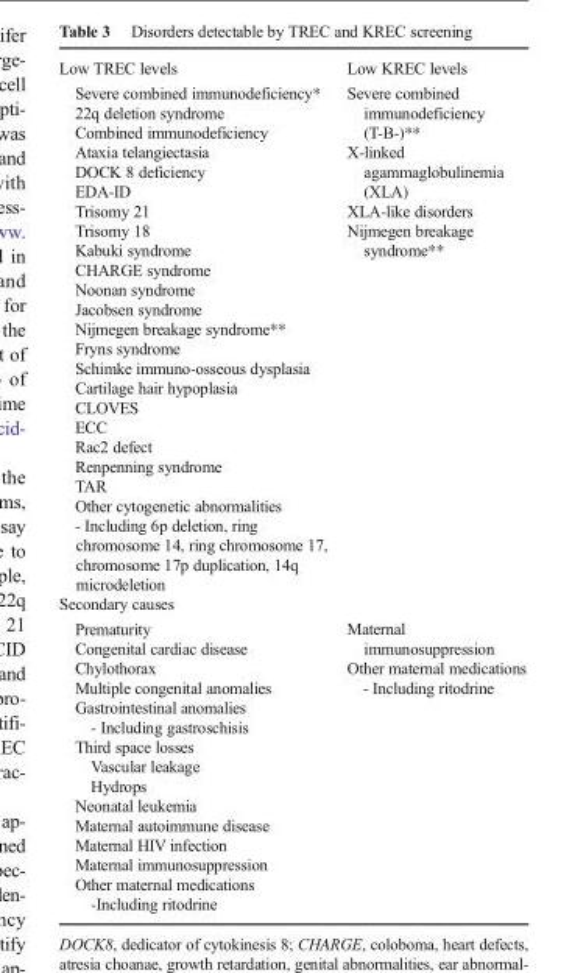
<table><tbody><tr><td>Low TREC levels</td><td>Low KREC levels</td></tr><tr><td>Severe combined immunodeficiency* 22q deletion syndrome Combined immunodeficiency Ataxia telangiectasia DOCK 8 deficiency EDA-ID Trisomy 21 Trisomy 18 Kabuki syndrome CHARGE syndrome Noonan syndrome Jacobsen syndrome Nijmegen breakage syndrome** Fryns syndrome Schimke immuno-osseous dysplasia Cartilage hair hypoplasia CLOVES ECC Rac2 defect Renpenning syndrome TAR Other cytogenetic abnormalities - Including 6p deletion, ring chromosome 14, ring chromosome 17, chromosome 17p duplication, 14q microdeletion</td><td>Severe combined immunodeficiency (T-B-)** X-linked agammaglobulinemia (XLA) XLA-like disorders Nijmegen breakage syndrome**</td></tr><tr><td colspan="2">Secondary causes</td></tr><tr><td>Prematurity Congenital cardiac disease Chylothorax Multiple congenital anomalies Gastrointestinal anomalies - Including gastroschisis Third space losses Vascular leakage Hydrops Neonatal leukemia Maternal autoimmune disease Maternal HIV infection Maternal immunosuppression Other maternal medications -Including ritodrine</td><td>Maternal immunosuppression Other maternal medications - Including ritodrine</td></tr></tbody></table>